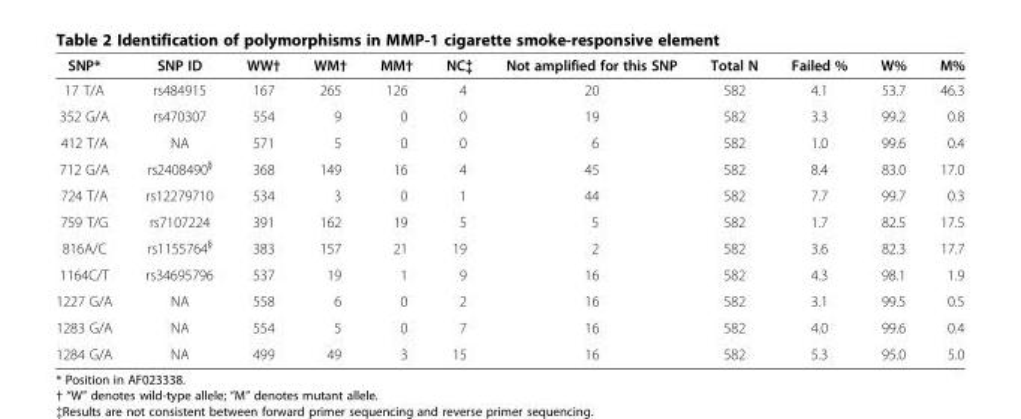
<table><thead><tr><td>SNP*</td><td>SNP ID</td><td>WW†</td><td>WM†</td><td>MM†</td><td>NC{{</td><td>Not amplified for this SNP</td><td>Total N</td><td>Failed %</td><td>W%</td><td>M%</td></tr></thead><tbody><tr><td>17 T/A</td><td>rs484915</td><td>167</td><td>265</td><td>126</td><td>4</td><td>20</td><td>582</td><td>4.1</td><td>53.7</td><td>46.3</td></tr><tr><td>352 G/A</td><td>rs470307</td><td>554</td><td>9</td><td>0</td><td>0</td><td>19</td><td>582</td><td>3.3</td><td>99.2</td><td>0.8</td></tr><tr><td>412 T/A</td><td>NA</td><td>571</td><td>5</td><td>0</td><td>0</td><td>6</td><td>582</td><td>1.0</td><td>99.6</td><td>0.4</td></tr><tr><td>712 G/A</td><td>rs2408490<sup>§</sup></td><td>368</td><td>149</td><td>16</td><td>4</td><td>45</td><td>582</td><td>8.4</td><td>83.0</td><td>17.0</td></tr><tr><td>724 T/A</td><td>rs12279710</td><td>534</td><td>3</td><td>0</td><td>1</td><td>44</td><td>582</td><td>7.7</td><td>99.7</td><td>0.3</td></tr><tr><td>759 T/G</td><td>rs7107224</td><td>391</td><td>162</td><td>19</td><td>5</td><td>5</td><td>582</td><td>1.7</td><td>82.5</td><td>17.5</td></tr><tr><td>816A/C</td><td>rs1155764<sup>§</sup></td><td>383</td><td>157</td><td>21</td><td>19</td><td>2</td><td>582</td><td>3.6</td><td>82.3</td><td>17.7</td></tr><tr><td>1164C/T</td><td>rs34695796</td><td>537</td><td>19</td><td>1</td><td>9</td><td>16</td><td>582</td><td>4.3</td><td>98.1</td><td>1.9</td></tr><tr><td>1227 G/A</td><td>NA</td><td>558</td><td>6</td><td>0</td><td>2</td><td>16</td><td>582</td><td>3.1</td><td>99.5</td><td>0.5</td></tr><tr><td>1283 G/A</td><td>NA</td><td>554</td><td>5</td><td>0</td><td>7</td><td>16</td><td>582</td><td>4.0</td><td>99.6</td><td>0.4</td></tr><tr><td>1284 G/A</td><td>NA</td><td>499</td><td>49</td><td>3</td><td>15</td><td>16</td><td>582</td><td>5.3</td><td>95.0</td><td>5.0</td></tr></tbody></table>